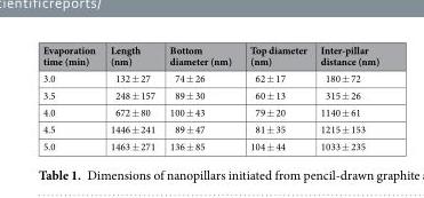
<table><thead><tr><td>Evaporation time (min)</td><td>Length (nm)</td><td>Bottom diameter (nm)</td><td>Top diameter (nm)</td><td>Inter-pillar distance (nm)</td></tr></thead><tbody><tr><td>3.0</td><td>132 ± 27</td><td>74 ± 26</td><td>62 ± 17</td><td>180 ± 72</td></tr><tr><td>3.5</td><td>248 ± 157</td><td>89 ± 30</td><td>60 ± 13</td><td>315 ± 26</td></tr><tr><td>4.0</td><td>672 ± 80</td><td>100 ± 43</td><td>79 ± 20</td><td>1140 ± 61</td></tr><tr><td>4.5</td><td>1446 ± 241</td><td>89 ± 47</td><td>81 ± 35</td><td>1215 ± 153</td></tr><tr><td>5.0</td><td>1463 ± 271</td><td>136 ± 85</td><td>104 ± 44</td><td>1033 ± 235</td></tr></tbody></table>